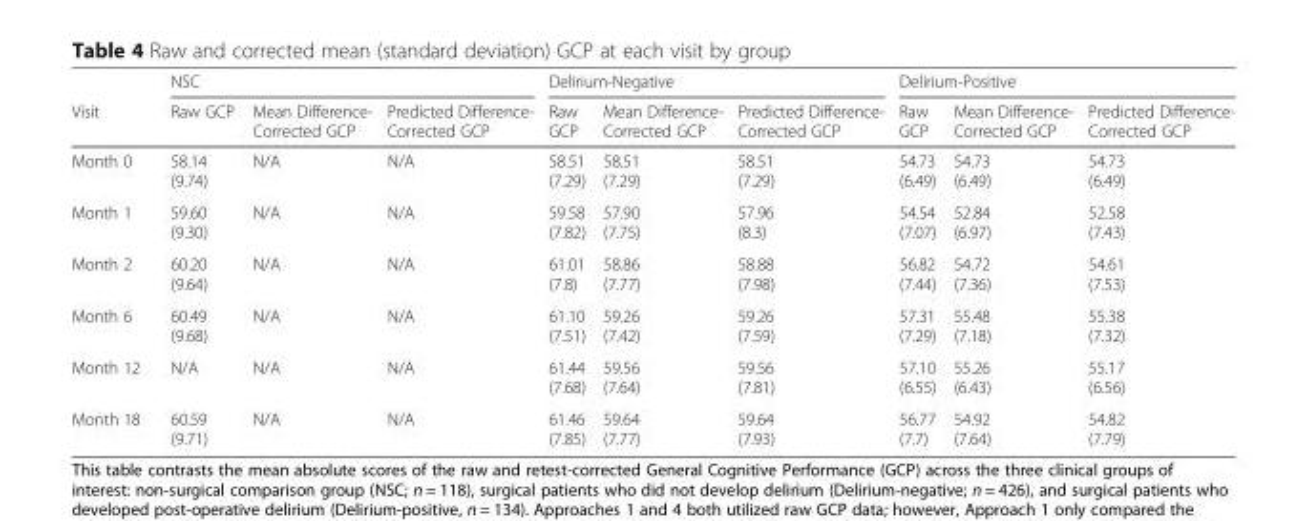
<table><thead><tr><td rowspan="2">Visit</td><td colspan="3">NSC</td><td colspan="3">Delirium-Negative</td><td colspan="3">Delirium-Positive</td></tr><tr><td>Raw GCP</td><td>Mean Difference- Corrected GCP</td><td>Predicted Difference- Corrected GCP</td><td>Raw GCP</td><td>Mean Difference- Corrected GCP</td><td>Predicted Difference- Corrected GCP</td><td>Raw GCP</td><td>Mean Difference- Corrected GCP</td><td>Predicted Difference- Corrected GCP</td></tr></thead><tbody><tr><td>Month 0</td><td>58.14 (9.74)</td><td>N/A</td><td>N/A</td><td>58.51 (7.29)</td><td>58.51 (7.29)</td><td>58.51 (7.29)</td><td>54.73 (6.49)</td><td>54.73 (6.49)</td><td>54.73 (6.49)</td></tr><tr><td>Month 1</td><td>59.60 (9.30)</td><td>N/A</td><td>N/A</td><td>59.58 (7.82)</td><td>57.90 (7.75)</td><td>57.96 (8.3)</td><td>54.54 (7.07)</td><td>52.84 (6.97)</td><td>52.58 (7.43)</td></tr><tr><td>Month 2</td><td>60.20 (9.64)</td><td>N/A</td><td>N/A</td><td>61.01 (7.8)</td><td>58.86 (7.77)</td><td>58.88 (7.98)</td><td>56.82 (7.44)</td><td>54.72 (7.36)</td><td>54.61 (7.53)</td></tr><tr><td>Month 6</td><td>60.49 (9.68)</td><td>N/A</td><td>N/A</td><td>61.10 (7.51)</td><td>59.26 (7.42)</td><td>59.26 (7.59)</td><td>57.31 (7.29)</td><td>55.48 (7.18)</td><td>55.38 (7.32)</td></tr><tr><td>Month 12</td><td>N/A</td><td>N/A</td><td>N/A</td><td>61.44 (7.68)</td><td>59.56 (7.64)</td><td>59.56 (7.81)</td><td>57.10 (6.55)</td><td>55.26 (6.43)</td><td>55.17 (6.56)</td></tr><tr><td>Month 18</td><td>60.59 (9.71)</td><td>N/A</td><td>N/A</td><td>61.46 (7.85)</td><td>59.64 (7.77)</td><td>59.64 (7.93)</td><td>56.77 (7.7)</td><td>54.92 (7.64)</td><td>54.82 (7.79)</td></tr></tbody></table>